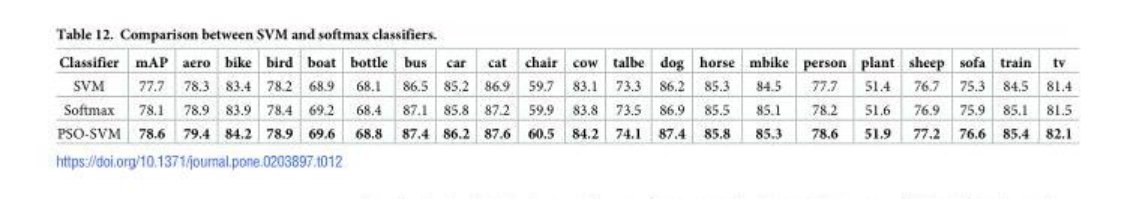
<table><thead><tr><td>Classifier</td><td>mAP</td><td>aero</td><td>bike</td><td>bird</td><td>boat</td><td>bottle</td><td>bus</td><td>car</td><td>cat</td><td>chair</td><td>cow</td><td>talbe</td><td>dog</td><td>horse</td><td>mbike</td><td>person</td><td>plant</td><td>sheep</td><td>sofa</td><td>train</td><td>tv</td></tr></thead><tbody><tr><td>SVM</td><td>77.7</td><td>78.3</td><td>83.4</td><td>78.2</td><td>68.9</td><td>68.1</td><td>86.5</td><td>85.2</td><td>86.9</td><td>59.7</td><td>83.1</td><td>73.3</td><td>86.2</td><td>85.3</td><td>84.5</td><td>77.7</td><td>51.4</td><td>76.7</td><td>75.3</td><td>84.5</td><td>81.4</td></tr><tr><td>Softmax</td><td>78.1</td><td>78.9</td><td>83.9</td><td>78.4</td><td>69.2</td><td>68.4</td><td>87.1</td><td>85.8</td><td>87.2</td><td>59.9</td><td>83.8</td><td>73.5</td><td>86.9</td><td>85.5</td><td>85.1</td><td>78.2</td><td>51.6</td><td>76.9</td><td>75.9</td><td>85.1</td><td>81.5</td></tr><tr><td>PSO-SVM</td><td>78.6</td><td>79.4</td><td>84.2</td><td>78.9</td><td>69.6</td><td>68.8</td><td>87.4</td><td>86.2</td><td>87.6</td><td>60.5</td><td>84.2</td><td>74.1</td><td>87.4</td><td>85.8</td><td>85.3</td><td>78.6</td><td>51.9</td><td>77.2</td><td>76.6</td><td>85.4</td><td>82.1</td></tr></tbody></table>